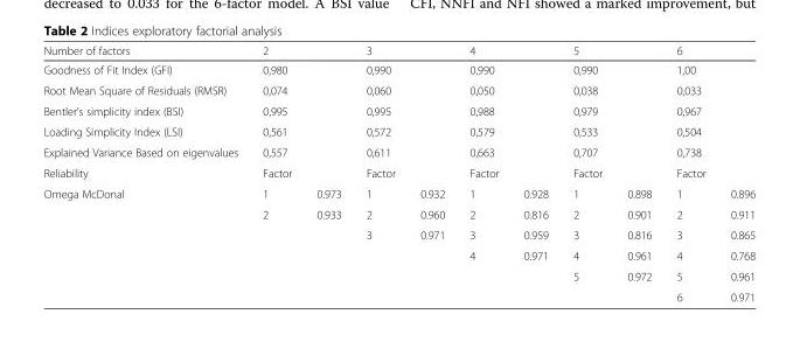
<table><thead><tr><td>Number of factors</td><td>2</td><td></td><td>3</td><td></td><td>4</td><td></td><td>5</td><td></td><td>6</td><td></td></tr></thead><tbody><tr><td>Goodness of Fit Index (GFI)</td><td>0,980</td><td></td><td>0,990</td><td></td><td>0,990</td><td></td><td>0,990</td><td></td><td>1,00</td><td></td></tr><tr><td>Root Mean Square of Residuals (RMSR)</td><td>0,074</td><td></td><td>0,060</td><td></td><td>0,050</td><td></td><td>0,038</td><td></td><td>0,033</td><td></td></tr><tr><td>Bentler’s simplicity index (BSI)</td><td>0,995</td><td></td><td>0,995</td><td></td><td>0,988</td><td></td><td>0,979</td><td></td><td>0,967</td><td></td></tr><tr><td>Loading Simplicity Index (LSI)</td><td>0,561</td><td></td><td>0,572</td><td></td><td>0,579</td><td></td><td>0,533</td><td></td><td>0,504</td><td></td></tr><tr><td>Explained Variance Based on eigenvalues</td><td>0,557</td><td></td><td>0,611</td><td></td><td>0,663</td><td></td><td>0,707</td><td></td><td>0,738</td><td></td></tr><tr><td>Reliability</td><td>Factor</td><td></td><td>Factor</td><td></td><td>Factor</td><td></td><td>Factor</td><td></td><td>Factor</td><td></td></tr><tr><td rowspan="6">Omega McDonal</td><td>1</td><td>0.973</td><td>1</td><td>0.932</td><td>1</td><td>0.928</td><td>1</td><td>0.898</td><td>1</td><td>0.896</td></tr><tr><td>2</td><td>0.933</td><td>2</td><td>0.960</td><td>2</td><td>0.816</td><td>2</td><td>0.901</td><td>2</td><td>0.911</td></tr><tr><td></td><td></td><td>3</td><td>0.971</td><td>3</td><td>0.959</td><td>3</td><td>0.816</td><td>3</td><td>0.865</td></tr><tr><td></td><td></td><td></td><td></td><td>4</td><td>0.971</td><td>4</td><td>0.961</td><td>4</td><td>0.768</td></tr><tr><td></td><td></td><td></td><td></td><td></td><td></td><td>5</td><td>0.972</td><td>5</td><td>0.961</td></tr><tr><td></td><td></td><td></td><td></td><td></td><td></td><td></td><td></td><td>6</td><td>0.971</td></tr></tbody></table>